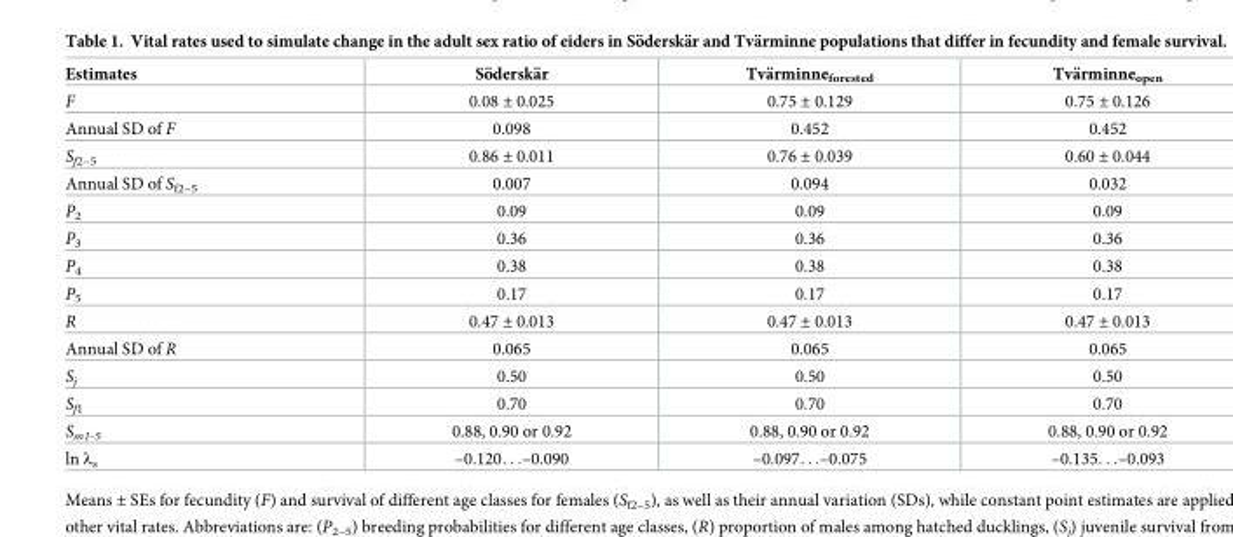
<table><thead><tr><td>Estimates</td><td>So¨derska¨r</td><td>Tva¨rminneforested</td><td>Tva¨rminneopen</td></tr></thead><tbody><tr><td>F</td><td>0.08 ± 0.025</td><td>0.75 ± 0.129</td><td>0.75 ± 0.126</td></tr><tr><td>Annual SD of F</td><td>0.098</td><td>0.452</td><td>0.452</td></tr><tr><td>S<sub>f2–5</sub></td><td>0.86 ± 0.011</td><td>0.76 ± 0.039</td><td>0.60 ± 0.044</td></tr><tr><td>Annual SD of S<sub>f2–5</sub></td><td>0.007</td><td>0.094</td><td>0.032</td></tr><tr><td>P<sub>2</sub></td><td>0.09</td><td>0.09</td><td>0.09</td></tr><tr><td>P<sub>3</sub></td><td>0.36</td><td>0.36</td><td>0.36</td></tr><tr><td>P<sub>4</sub></td><td>0.38</td><td>0.38</td><td>0.38</td></tr><tr><td>P<sub>5</sub></td><td>0.17</td><td>0.17</td><td>0.17</td></tr><tr><td>R</td><td>0.47 ± 0.013</td><td>0.47 ± 0.013</td><td>0.47 ± 0.013</td></tr><tr><td>Annual SD of R</td><td>0.065</td><td>0.065</td><td>0.065</td></tr><tr><td>S<sub>j</sub></td><td>0.50</td><td>0.50</td><td>0.50</td></tr><tr><td>S<sub>f1</sub></td><td>0.70</td><td>0.70</td><td>0.70</td></tr><tr><td>S<sub>m1-5</sub></td><td>0.88, 0.90 or 0.92</td><td>0.88, 0.90 or 0.92</td><td>0.88, 0.90 or 0.92</td></tr><tr><td>ln λ<sub>s</sub></td><td>–0.120. . .–0.090</td><td>–0.097. . .–0.075</td><td>–0.135. . .–0.093</td></tr></tbody></table>